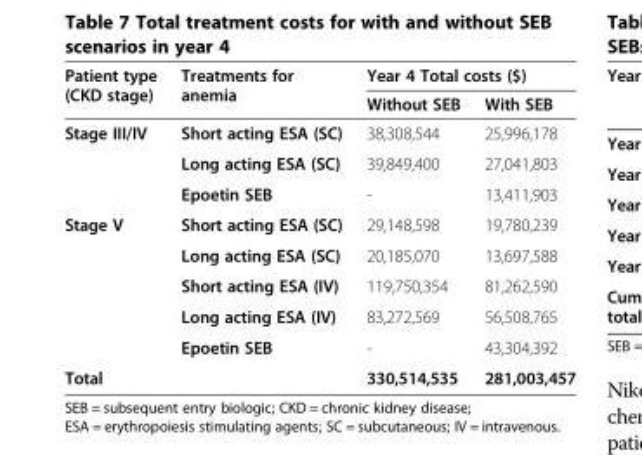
<table><thead><tr><td rowspan="2">Patient type (CKD stage)</td><td rowspan="2">Treatments for anemia</td><td colspan="2">Year 4 Total costs ($)</td></tr><tr><td>Without SEB</td><td>With SEB</td></tr></thead><tbody><tr><td rowspan="3">Stage III/IV</td><td>Short acting ESA (SC)</td><td>38,308,544</td><td>25,996,178</td></tr><tr><td>Long acting ESA (SC)</td><td>39,849,400</td><td>27,041,803</td></tr><tr><td>Epoetin SEB</td><td>-</td><td>13,411,903</td></tr><tr><td rowspan="5">Stage V</td><td>Short acting ESA (SC)</td><td>29,148,598</td><td>19,780,239</td></tr><tr><td>Long acting ESA (SC)</td><td>20,185,070</td><td>13,697,588</td></tr><tr><td>Short acting ESA (IV)</td><td>119,750,354</td><td>81,262,590</td></tr><tr><td>Long acting ESA (IV)</td><td>83,272,569</td><td>56,508,765</td></tr><tr><td>Epoetin SEB</td><td>-</td><td>43,304,392</td></tr><tr><td colspan="2">Total</td><td>330,514,535</td><td>281,003,457</td></tr></tbody></table>